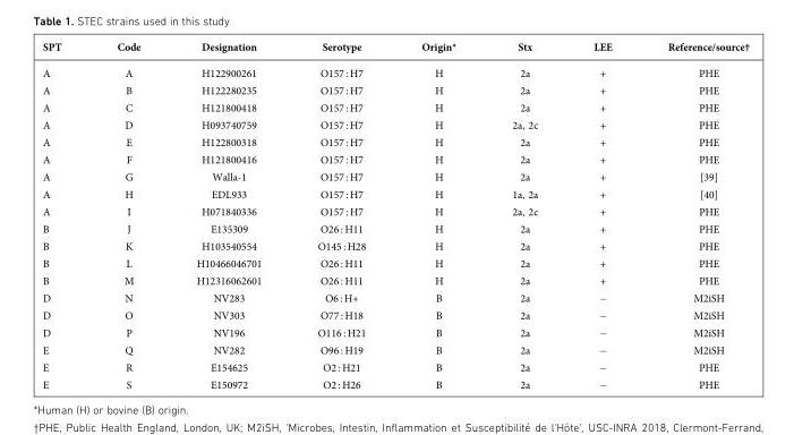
<table><thead><tr><td>SPT</td><td>Code</td><td>Designation</td><td>Serotype</td><td>Origin*</td><td>Stx</td><td>LEE</td><td>Reference/source†</td></tr></thead><tbody><tr><td>A</td><td>A</td><td>H122900261</td><td>O157 : H7</td><td>H</td><td>2a</td><td>+</td><td>PHE</td></tr><tr><td>A</td><td>B</td><td>H122280235</td><td>O157 : H7</td><td>H</td><td>2a</td><td>+</td><td>PHE</td></tr><tr><td>A</td><td>C</td><td>H121800418</td><td>O157 : H7</td><td>H</td><td>2a</td><td>+</td><td>PHE</td></tr><tr><td>A</td><td>D</td><td>H093740759</td><td>O157 : H7</td><td>H</td><td>2a, 2c</td><td>+</td><td>PHE</td></tr><tr><td>A</td><td>E</td><td>H122800318</td><td>O157 : H7</td><td>H</td><td>2a</td><td>+</td><td>PHE</td></tr><tr><td>A</td><td>F</td><td>H121800416</td><td>O157 : H7</td><td>H</td><td>2a</td><td>+</td><td>PHE</td></tr><tr><td>A</td><td>G</td><td>Walla-1</td><td>O157 : H7</td><td>H</td><td>2a</td><td>+</td><td>[39]</td></tr><tr><td>A</td><td>H</td><td>EDL933</td><td>O157 : H7</td><td>H</td><td>1a, 2a</td><td>+</td><td>[40]</td></tr><tr><td>A</td><td>I</td><td>H071840336</td><td>O157 : H7</td><td>H</td><td>2a, 2c</td><td>+</td><td>PHE</td></tr><tr><td>B</td><td>J</td><td>E135309</td><td>O26 : H11</td><td>H</td><td>2a</td><td>+</td><td>PHE</td></tr><tr><td>B</td><td>K</td><td>H103540554</td><td>O145 : H28</td><td>H</td><td>2a</td><td>+</td><td>PHE</td></tr><tr><td>B</td><td>L</td><td>H10466046701</td><td>O26 : H11</td><td>H</td><td>2a</td><td>+</td><td>PHE</td></tr><tr><td>B</td><td>M</td><td>H12316062601</td><td>O26 : H11</td><td>H</td><td>2a</td><td>+</td><td>PHE</td></tr><tr><td>D</td><td>N</td><td>NV283</td><td>O6 : H+</td><td>B</td><td>2a</td><td>−</td><td>M2iSH</td></tr><tr><td>D</td><td>O</td><td>NV303</td><td>O77 : H18</td><td>B</td><td>2a</td><td>−</td><td>M2iSH</td></tr><tr><td>D</td><td>P</td><td>NV196</td><td>O116 : H21</td><td>B</td><td>2a</td><td>−</td><td>M2iSH</td></tr><tr><td>E</td><td>Q</td><td>NV282</td><td>O96 : H19</td><td>B</td><td>2a</td><td>−</td><td>M2iSH</td></tr><tr><td>E</td><td>R</td><td>E154625</td><td>O2 : H21</td><td>B</td><td>2a</td><td>−</td><td>PHE</td></tr><tr><td>E</td><td>S</td><td>E150972</td><td>O2 : H26</td><td>B</td><td>2a</td><td>−</td><td>PHE</td></tr></tbody></table>